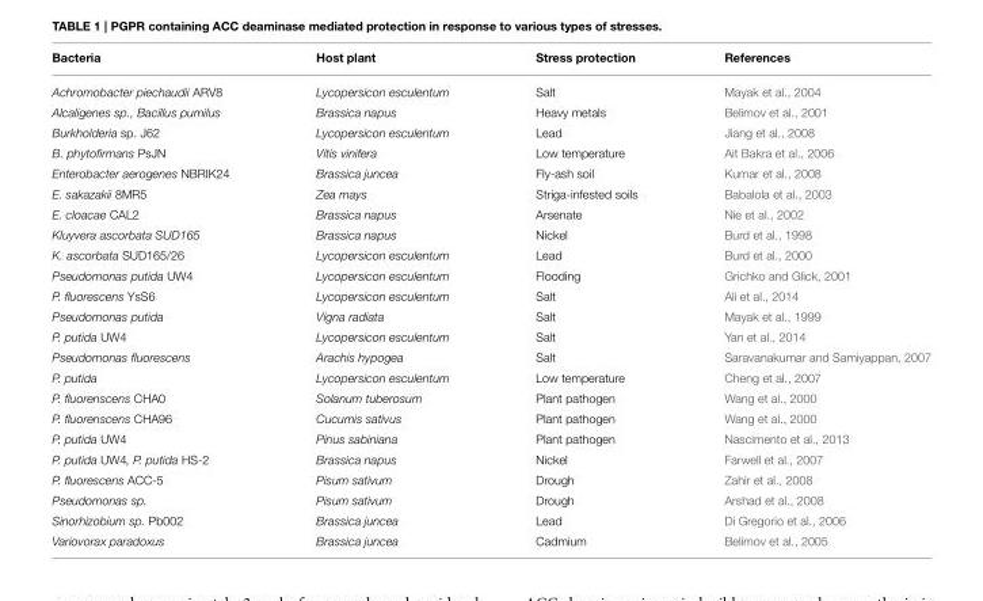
<table><thead><tr><td>Bacteria</td><td>Host plant</td><td>Stress protection</td><td>References</td></tr></thead><tbody><tr><td>Achromobacter piechaudii ARV8</td><td>Lycopersicon esculentum</td><td>Salt</td><td>Mayak et al., 2004</td></tr><tr><td>Alcaligenes sp., Bacillus pumilus</td><td>Brassica napus</td><td>Heavy metals</td><td>Belimov et al., 2001</td></tr><tr><td>Burkholderia sp. J62</td><td>Lycopersicon esculentum</td><td>Lead</td><td>Jiang et al., 2008</td></tr><tr><td>B. phytofirmans PsJN</td><td>Vitis vinifera</td><td>Low temperature</td><td>Ait Bakra et al., 2006</td></tr><tr><td>Enterobacter aerogenes NBRIK24</td><td>Brassica juncea</td><td>Fly-ash soil</td><td>Kumar et al., 2008</td></tr><tr><td>E. sakazakii 8MR5</td><td>Zea mays</td><td>Striga-infested soils</td><td>Babalola et al., 2003</td></tr><tr><td>E. cloacae CAL2</td><td>Brassica napus</td><td>Arsenate</td><td>Nie et al., 2002</td></tr><tr><td>Kluyvera ascorbata SUD165</td><td>Brassica napus</td><td>Nickel</td><td>Burd et al., 1998</td></tr><tr><td>K. ascorbata SUD165/26</td><td>Lycopersicon esculentum</td><td>Lead</td><td>Burd et al., 2000</td></tr><tr><td>Pseudomonas putida UW4</td><td>Lycopersicon esculentum</td><td>Flooding</td><td>Grichko and Glick, 2001</td></tr><tr><td>P. fluorescens YsS6</td><td>Lycopersicon esculentum</td><td>Salt</td><td>Ali et al., 2014</td></tr><tr><td>Pseudomonas putida</td><td>Vigna radiata</td><td>Salt</td><td>Mayak et al., 1999</td></tr><tr><td>P. putida UW4</td><td>Lycopersicon esculentum</td><td>Salt</td><td>Yan et al., 2014</td></tr><tr><td>Pseudomonas fluorescens</td><td>Arachis hypogea</td><td>Salt</td><td>Saravanakumar and Samiyappan, 2007</td></tr><tr><td>P. putida</td><td>Lycopersicon esculentum</td><td>Low temperature</td><td>Cheng et al., 2007</td></tr><tr><td>P. fluorenscens CHA0</td><td>Solanum tuberosum</td><td>Plant pathogen</td><td>Wang et al., 2000</td></tr><tr><td>P. fluorenscens CHA96</td><td>Cucumis sativus</td><td>Plant pathogen</td><td>Wang et al., 2000</td></tr><tr><td>P. putida UW4</td><td>Pinus sabiniana</td><td>Plant pathogen</td><td>Nascimento et al., 2013</td></tr><tr><td>P. putida UW4, P. putida HS-2</td><td>Brassica napus</td><td>Nickel</td><td>Farwell et al., 2007</td></tr><tr><td>P. fluorescens ACC-5</td><td>Pisum sativum</td><td>Drough</td><td>Zahir et al., 2008</td></tr><tr><td>Pseudomonas sp.</td><td>Pisum sativum</td><td>Drough</td><td>Arshad et al., 2008</td></tr><tr><td>Sinorhizobium sp. Pb002</td><td>Brassica juncea</td><td>Lead</td><td>Di Gregorio et al., 2006</td></tr><tr><td>Variovorax paradoxus</td><td>Brassica juncea</td><td>Cadmium</td><td>Belimov et al., 2005</td></tr></tbody></table>